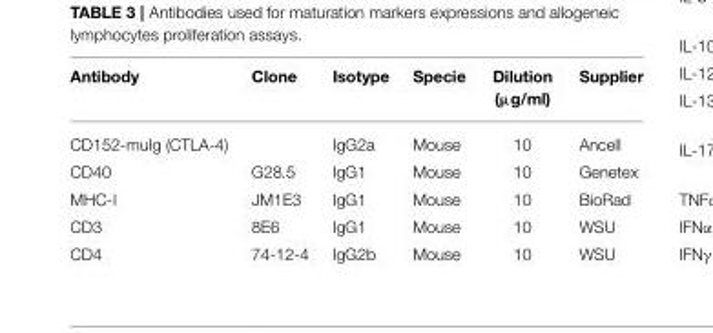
<table><thead><tr><td>Antibody</td><td>Clone</td><td>Isotype</td><td>Specie</td><td>Dilution (µg/ml)</td><td>Supplier</td></tr></thead><tbody><tr><td>CD152-muIg (CTLA-4)</td><td></td><td>IgG2a</td><td>Mouse</td><td>10</td><td>Ancell</td></tr><tr><td>CD40</td><td>G28.5</td><td>IgG1</td><td>Mouse</td><td>10</td><td>Genetex</td></tr><tr><td>MHC-I</td><td>JM1E3</td><td>IgG1</td><td>Mouse</td><td>10</td><td>BioRad</td></tr><tr><td>CD3</td><td>8E6</td><td>IgG1</td><td>Mouse</td><td>10</td><td>WSU</td></tr><tr><td>CD4</td><td>74-12-4</td><td>IgG2b</td><td>Mouse</td><td>10</td><td>WSU</td></tr></tbody></table>